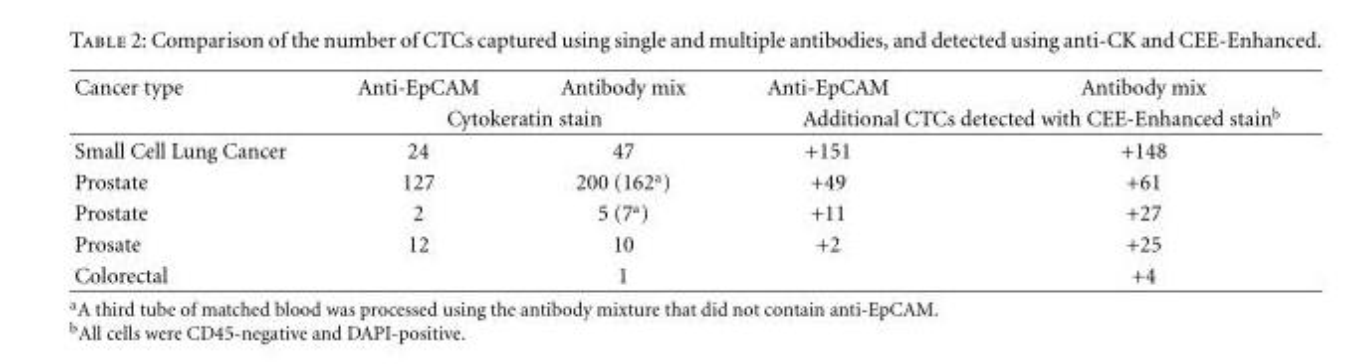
<table><thead><tr><td rowspan="2">Cancer type</td><td>Anti-EpCAM</td><td>Antibody mix</td><td>Anti-EpCAM</td><td>Antibody mix</td></tr><tr><td colspan="2">Cytokeratin stain</td><td colspan="2">Additional CTCs detected with CEE-Enhanced stain<sup>b</sup></td></tr></thead><tbody><tr><td>Small Cell Lung Cancer</td><td>24</td><td>47</td><td>+151</td><td>+148</td></tr><tr><td>Prostate</td><td>127</td><td>200 (162<sup>a</sup>)</td><td>+49</td><td>+61</td></tr><tr><td>Prostate</td><td>2</td><td>5 (7<sup>a</sup>)</td><td>+11</td><td>+27</td></tr><tr><td>Prosate</td><td>12</td><td>10</td><td>+2</td><td>+25</td></tr><tr><td>Colorectal</td><td></td><td>1</td><td></td><td>+4</td></tr></tbody></table>